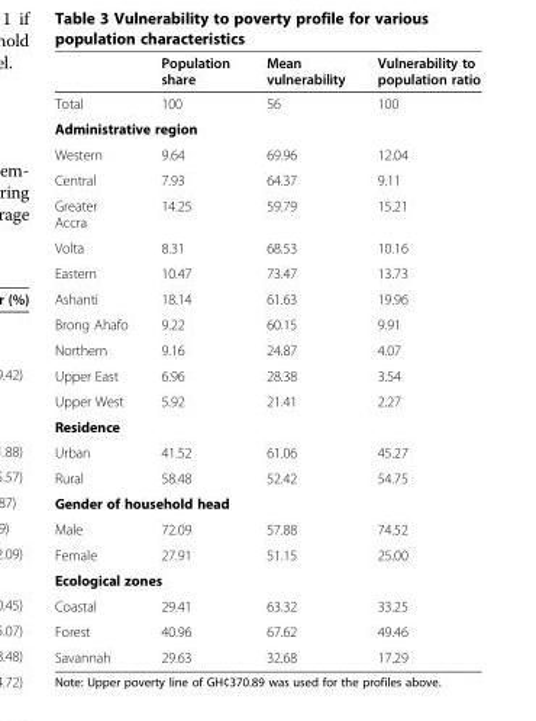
<table><thead><tr><td></td><td>Population share</td><td>Mean vulnerability</td><td>Vulnerability to population ratio</td></tr></thead><tbody><tr><td>Total</td><td>100</td><td>56</td><td>100</td></tr><tr><td colspan="4">Administrative region</td></tr><tr><td>Western</td><td>9.64</td><td>69.96</td><td>12.04</td></tr><tr><td>Central</td><td>7.93</td><td>64.37</td><td>9.11</td></tr><tr><td>Greater Accra</td><td>14.25</td><td>59.79</td><td>15.21</td></tr><tr><td>Volta</td><td>8.31</td><td>68.53</td><td>10.16</td></tr><tr><td>Eastern</td><td>10.47</td><td>73.47</td><td>13.73</td></tr><tr><td>Ashanti</td><td>18.14</td><td>61.63</td><td>19.96</td></tr><tr><td>Brong Ahafo</td><td>9.22</td><td>60.15</td><td>9.91</td></tr><tr><td>Northern</td><td>9.16</td><td>24.87</td><td>4.07</td></tr><tr><td>Upper East</td><td>6.96</td><td>28.38</td><td>3.54</td></tr><tr><td>Upper West</td><td>5.92</td><td>21.41</td><td>2.27</td></tr><tr><td colspan="4">Residence</td></tr><tr><td>Urban</td><td>41.52</td><td>61.06</td><td>45.27</td></tr><tr><td>Rural</td><td>58.48</td><td>52.42</td><td>54.75</td></tr><tr><td colspan="4">Gender of household head</td></tr><tr><td>Male</td><td>72.09</td><td>57.88</td><td>74.52</td></tr><tr><td>Female</td><td>27.91</td><td>51.15</td><td>25.00</td></tr><tr><td colspan="4">Ecological zones</td></tr><tr><td>Coastal</td><td>29.41</td><td>63.32</td><td>33.25</td></tr><tr><td>Forest</td><td>40.96</td><td>67.62</td><td>49.46</td></tr><tr><td>Savannah</td><td>29.63</td><td>32.68</td><td>17.29</td></tr></tbody></table>